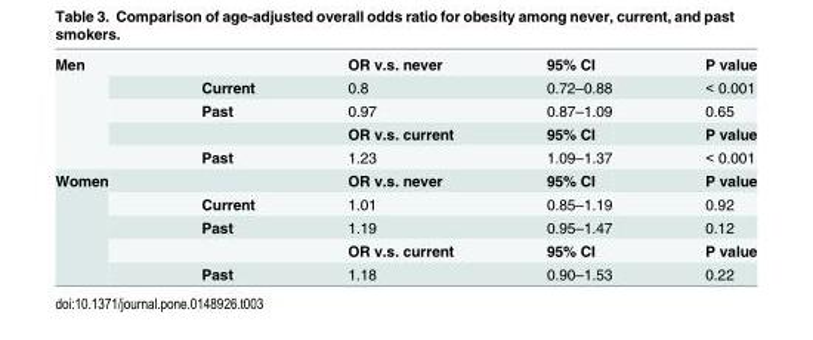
<table><tbody><tr><td rowspan="5">Men</td><td></td><td>OR v.s. never</td><td>95% CI</td><td>P value</td></tr><tr><td>Current</td><td>0.8</td><td>0.72–0.88</td><td>&lt; 0.001</td></tr><tr><td>Past</td><td>0.97</td><td>0.87–1.09</td><td>0.65</td></tr><tr><td></td><td>OR v.s. current</td><td>95% CI</td><td>P value</td></tr><tr><td>Past</td><td>1.23</td><td>1.09–1.37</td><td>&lt; 0.001</td></tr><tr><td rowspan="5">Women</td><td></td><td>OR v.s. never</td><td>95% CI</td><td>P value</td></tr><tr><td>Current</td><td>1.01</td><td>0.85–1.19</td><td>0.92</td></tr><tr><td>Past</td><td>1.19</td><td>0.95–1.47</td><td>0.12</td></tr><tr><td></td><td>OR v.s. current</td><td>95% CI</td><td>P value</td></tr><tr><td>Past</td><td>1.18</td><td>0.90–1.53</td><td>0.22</td></tr></tbody></table>